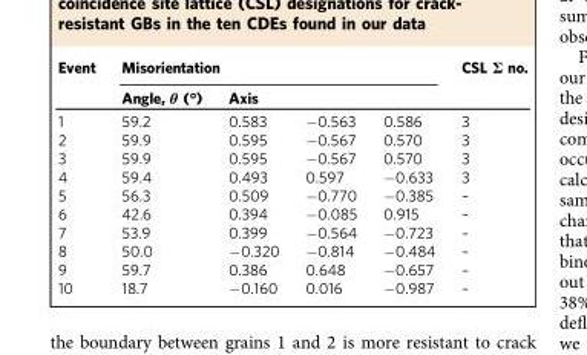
<table><thead><tr><td rowspan="3">Event 1</td><td colspan="4">Misorientation</td><td rowspan="3">CSL Σ no. 3</td></tr><tr><td rowspan="2">Angle, θ (°) 59.2</td><td colspan="3">Axis</td></tr><tr><td>0.583</td><td>−0.563</td><td>0.586</td></tr></thead><tbody><tr><td>2</td><td>59.9</td><td>0.595</td><td>−0.567</td><td>0.570</td><td>3</td></tr><tr><td>3</td><td>59.9</td><td>0.595</td><td>−0.567</td><td>0.570</td><td>3</td></tr><tr><td>4</td><td>59.4</td><td>0.493</td><td>0.597</td><td>−0.633</td><td>3</td></tr><tr><td>5</td><td>56.3</td><td>0.509</td><td>−0.770</td><td>−0.385</td><td>–</td></tr><tr><td>6</td><td>42.6</td><td>0.394</td><td>−0.085</td><td>0.915</td><td>–</td></tr><tr><td>7</td><td>53.9</td><td>0.399</td><td>−0.564</td><td>−0.723</td><td>–</td></tr><tr><td>8</td><td>50.0</td><td>−0.320</td><td>−0.814</td><td>−0.484</td><td>–</td></tr><tr><td>9</td><td>59.7</td><td>0.386</td><td>0.648</td><td>−0.657</td><td>–</td></tr><tr><td>10</td><td>18.7</td><td>−0.160</td><td>0.016</td><td>−0.987</td><td>–</td></tr></tbody></table>